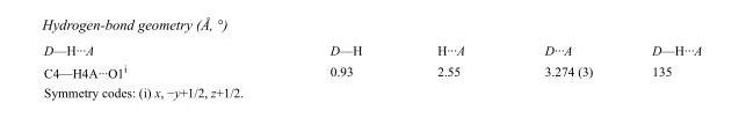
<table><tbody><tr><td>D—H···A</td><td>D—H</td><td>H···A</td><td>D···A</td><td>D—H···A</td></tr><tr><td>C4—H4A···O1<sup>i</sup></td><td>0.93</td><td>2.55</td><td>3.274 (3)</td><td>135</td></tr></tbody></table>